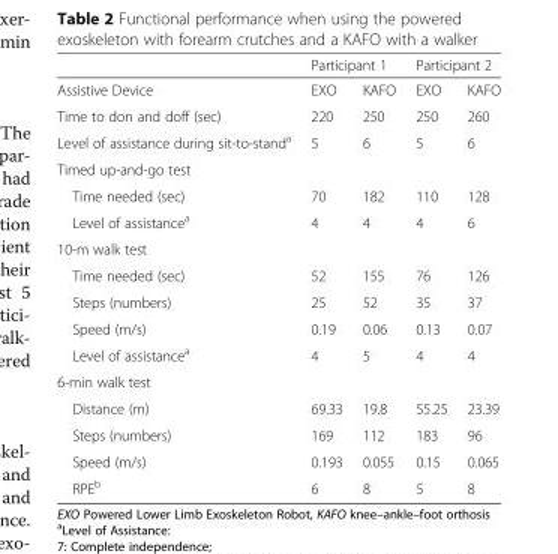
<table><thead><tr><td rowspan="2">Assistive Device</td><td colspan="2">Participant 1</td><td colspan="2">Participant 2</td></tr><tr><td>EXO</td><td>KAFO</td><td>EXO</td><td>KAFO</td></tr></thead><tbody><tr><td>Time to don and doff (sec)</td><td>220</td><td>250</td><td>250</td><td>260</td></tr><tr><td>Level of assistance during sit-to-stand<sup>a</sup></td><td>5</td><td>6</td><td>5</td><td>6</td></tr><tr><td colspan="5">Timed up-and-go test</td></tr><tr><td>Time needed (sec)</td><td>70</td><td>182</td><td>110</td><td>128</td></tr><tr><td>Level of assistance<sup>a</sup></td><td>4</td><td>4</td><td>4</td><td>6</td></tr><tr><td colspan="5">10-m walk test</td></tr><tr><td>Time needed (sec)</td><td>52</td><td>155</td><td>76</td><td>126</td></tr><tr><td>Steps (numbers)</td><td>25</td><td>52</td><td>35</td><td>37</td></tr><tr><td>Speed (m/s)</td><td>0.19</td><td>0.06</td><td>0.13</td><td>0.07</td></tr><tr><td>Level of assistance<sup>a</sup></td><td>4</td><td>5</td><td>4</td><td>4</td></tr><tr><td colspan="5">6-min walk test</td></tr><tr><td>Distance (m)</td><td>69.33</td><td>19.8</td><td>55.25</td><td>23.39</td></tr><tr><td>Steps (numbers)</td><td>169</td><td>112</td><td>183</td><td>96</td></tr><tr><td>Speed (m/s)</td><td>0.193</td><td>0.055</td><td>0.15</td><td>0.065</td></tr><tr><td>RPE<sup>b</sup></td><td>6</td><td>8</td><td>5</td><td>8</td></tr></tbody></table>